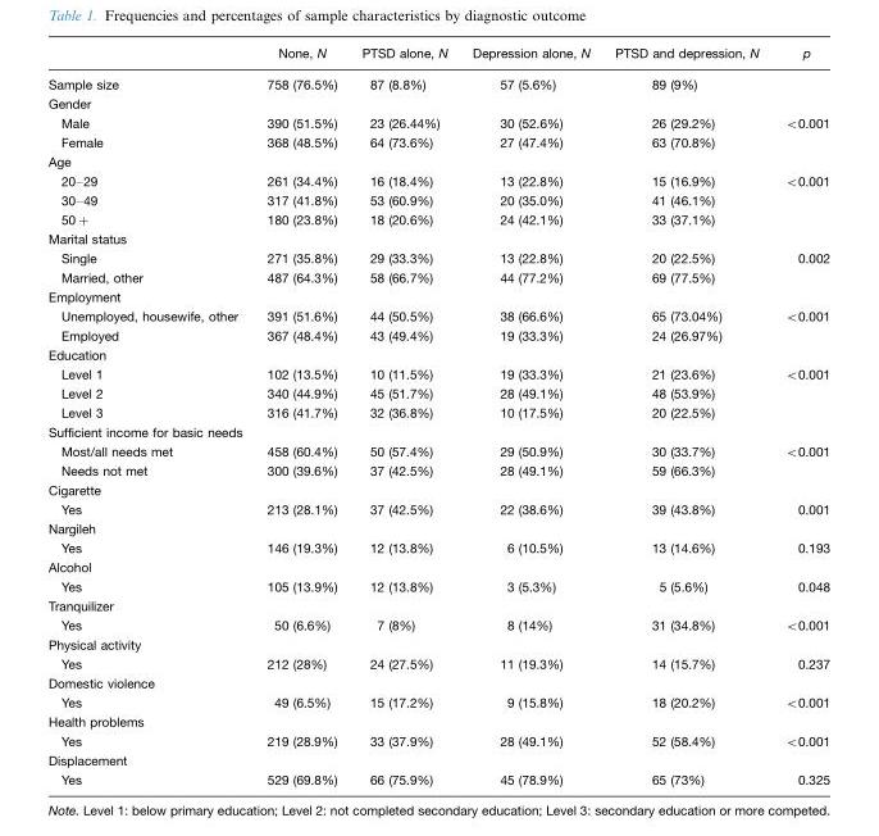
<table><thead><tr><td></td><td>None, N</td><td>PTSD alone, N</td><td>Depression alone, N</td><td>PTSD and depression, N</td><td>p</td></tr></thead><tbody><tr><td>Sample size</td><td>758 (76.5%)</td><td>87 (8.8%)</td><td>57 (5.6%)</td><td>89 (9%)</td><td></td></tr><tr><td colspan="6">Gender</td></tr><tr><td>Male</td><td>390 (51.5%)</td><td>23 (26.44%)</td><td>30 (52.6%)</td><td>26 (29.2%)</td><td>&lt;0.001</td></tr><tr><td>Female</td><td>368 (48.5%)</td><td>64 (73.6%)</td><td>27 (47.4%)</td><td>63 (70.8%)</td><td></td></tr><tr><td colspan="6">Age</td></tr><tr><td>20–29</td><td>261 (34.4%)</td><td>16 (18.4%)</td><td>13 (22.8%)</td><td>15 (16.9%)</td><td>&lt;0.001</td></tr><tr><td>30–49</td><td>317 (41.8%)</td><td>53 (60.9%)</td><td>20 (35.0%)</td><td>41 (46.1%)</td><td></td></tr><tr><td>50+</td><td>180 (23.8%)</td><td>18 (20.6%)</td><td>24 (42.1%)</td><td>33 (37.1%)</td><td></td></tr><tr><td colspan="6">Marital status</td></tr><tr><td>Single</td><td>271 (35.8%)</td><td>29 (33.3%)</td><td>13 (22.8%)</td><td>20 (22.5%)</td><td>0.002</td></tr><tr><td>Married, other</td><td>487 (64.3%)</td><td>58 (66.7%)</td><td>44 (77.2%)</td><td>69 (77.5%)</td><td></td></tr><tr><td colspan="6">Employment</td></tr><tr><td>Unemployed, housewife, other</td><td>391 (51.6%)</td><td>44 (50.5%)</td><td>38 (66.6%)</td><td>65 (73.04%)</td><td>&lt;0.001</td></tr><tr><td>Employed</td><td>367 (48.4%)</td><td>43 (49.4%)</td><td>19 (33.3%)</td><td>24 (26.97%)</td><td></td></tr><tr><td colspan="6">Education</td></tr><tr><td>Level 1</td><td>102 (13.5%)</td><td>10 (11.5%)</td><td>19 (33.3%)</td><td>21 (23.6%)</td><td>&lt;0.001</td></tr><tr><td>Level 2</td><td>340 (44.9%)</td><td>45 (51.7%)</td><td>28 (49.1%)</td><td>48 (53.9%)</td><td></td></tr><tr><td>Level 3</td><td>316 (41.7%)</td><td>32 (36.8%)</td><td>10 (17.5%)</td><td>20 (22.5%)</td><td></td></tr><tr><td colspan="6">Sufficient income for basic needs</td></tr><tr><td>Most/all needs met</td><td>458 (60.4%)</td><td>50 (57.4%)</td><td>29 (50.9%)</td><td>30 (33.7%)</td><td>&lt;0.001</td></tr><tr><td>Needs not met</td><td>300 (39.6%)</td><td>37 (42.5%)</td><td>28 (49.1%)</td><td>59 (66.3%)</td><td></td></tr><tr><td colspan="6">Cigarette</td></tr><tr><td>Yes</td><td>213 (28.1%)</td><td>37 (42.5%)</td><td>22 (38.6%)</td><td>39 (43.8%)</td><td>0.001</td></tr><tr><td colspan="6">Nargileh</td></tr><tr><td>Yes</td><td>146 (19.3%)</td><td>12 (13.8%)</td><td>6 (10.5%)</td><td>13 (14.6%)</td><td>0.193</td></tr><tr><td colspan="6">Alcohol</td></tr><tr><td>Yes</td><td>105 (13.9%)</td><td>12 (13.8%)</td><td>3 (5.3%)</td><td>5 (5.6%)</td><td>0.048</td></tr><tr><td colspan="6">Tranquilizer</td></tr><tr><td>Yes</td><td>50 (6.6%)</td><td>7 (8%)</td><td>8 (14%)</td><td>31 (34.8%)</td><td>&lt;0.001</td></tr><tr><td colspan="6">Physical activity</td></tr><tr><td>Yes</td><td>212 (28%)</td><td>24 (27.5%)</td><td>11 (19.3%)</td><td>14 (15.7%)</td><td>0.237</td></tr><tr><td colspan="6">Domestic violence</td></tr><tr><td>Yes</td><td>49 (6.5%)</td><td>15 (17.2%)</td><td>9 (15.8%)</td><td>18 (20.2%)</td><td>&lt;0.001</td></tr><tr><td colspan="6">Health problems</td></tr><tr><td>Yes</td><td>219 (28.9%)</td><td>33 (37.9%)</td><td>28 (49.1%)</td><td>52 (58.4%)</td><td>&lt;0.001</td></tr><tr><td colspan="6">Displacement</td></tr><tr><td>Yes</td><td>529 (69.8%)</td><td>66 (75.9%)</td><td>45 (78.9%)</td><td>65 (73%)</td><td>0.325</td></tr></tbody></table>